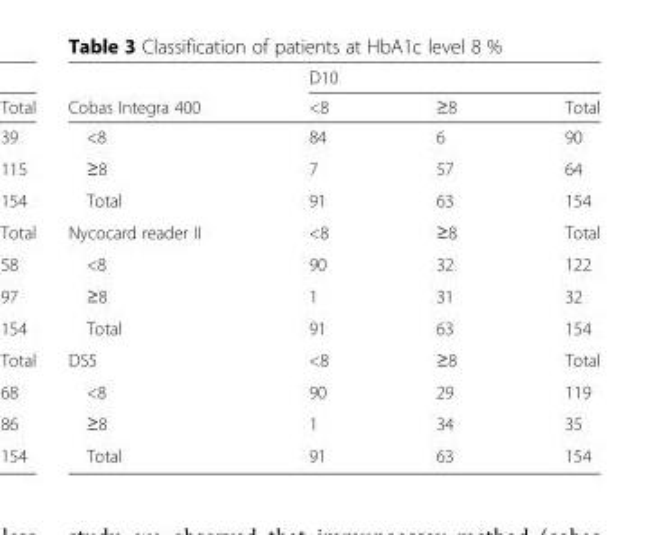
<table><thead><tr><td rowspan="2">Cobas Integra 400</td><td colspan="3">D10</td></tr><tr><td>&lt;8</td><td>≥8</td><td>Total</td></tr></thead><tbody><tr><td>&lt;8</td><td>84</td><td>6</td><td>90</td></tr><tr><td>≥8</td><td>7</td><td>57</td><td>64</td></tr><tr><td>Total</td><td>91</td><td>63</td><td>154</td></tr><tr><td>Nycocard reader II</td><td>&lt;8</td><td>≥8</td><td>Total</td></tr><tr><td>&lt;8</td><td>90</td><td>32</td><td>122</td></tr><tr><td>≥8</td><td>1</td><td>31</td><td>32</td></tr><tr><td>Total</td><td>91</td><td>63</td><td>154</td></tr><tr><td>DS5</td><td>&lt;8</td><td>≥8</td><td>Total</td></tr><tr><td>&lt;8</td><td>90</td><td>29</td><td>119</td></tr><tr><td>≥8</td><td>1</td><td>34</td><td>35</td></tr><tr><td>Total</td><td>91</td><td>63</td><td>154</td></tr></tbody></table>